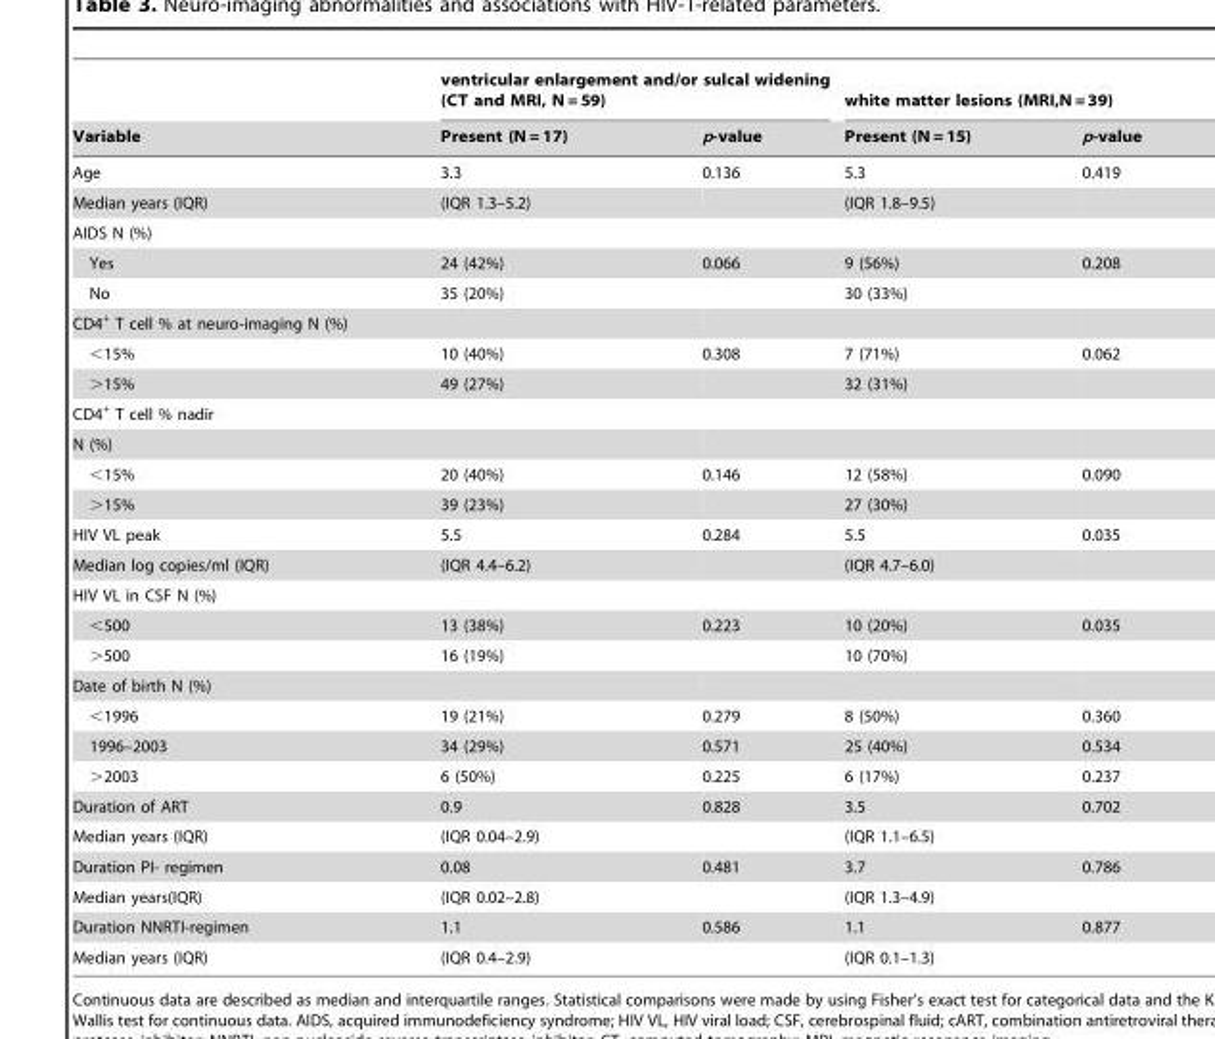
<table><thead><tr><td rowspan="2">Variable</td><td colspan="2">ventricular enlargement and/or sulcal widening (CT and MRI, N = 59)</td><td colspan="2">white matter lesions (MRI,N = 39)</td></tr><tr><td>Present (N = 17)</td><td>p-value</td><td>Present (N = 15)</td><td>p-value</td></tr></thead><tbody><tr><td>Age</td><td>3.3</td><td>0.136</td><td>5.3</td><td>0.419</td></tr><tr><td>Median years (IQR)</td><td>(IQR 1.3–5.2)</td><td></td><td>(IQR 1.8–9.5)</td><td></td></tr><tr><td colspan="5">AIDS N (%)</td></tr><tr><td>Yes</td><td>24 (42%)</td><td>0.066</td><td>9 (56%)</td><td>0.208</td></tr><tr><td>No</td><td>35 (20%)</td><td></td><td>30 (33%)</td><td></td></tr><tr><td colspan="5">CD4<sup>+</sup> T cell % at neuro-imaging N (%)</td></tr><tr><td>&lt;15%</td><td>10 (40%)</td><td>0.308</td><td>7 (71%)</td><td>0.062</td></tr><tr><td>&gt;15%</td><td>49 (27%)</td><td></td><td>32 (31%)</td><td></td></tr><tr><td colspan="5">CD4<sup>+</sup> T cell % nadir</td></tr><tr><td colspan="5">N (%)</td></tr><tr><td>&lt;15%</td><td>20 (40%)</td><td>0.146</td><td>12 (58%)</td><td>0.090</td></tr><tr><td>&gt;15%</td><td>39 (23%)</td><td></td><td>27 (30%)</td><td></td></tr><tr><td>HIV VL peak</td><td>5.5</td><td>0.284</td><td>5.5</td><td>0.035</td></tr><tr><td>Median log copies/ml (IQR)</td><td>(IQR 4.4–6.2)</td><td></td><td>(IQR 4.7–6.0)</td><td></td></tr><tr><td colspan="5">HIV VL in CSF N (%)</td></tr><tr><td>&lt;500</td><td>13 (38%)</td><td>0.223</td><td>10 (20%)</td><td>0.035</td></tr><tr><td>&gt;500</td><td>16 (19%)</td><td></td><td>10 (70%)</td><td></td></tr><tr><td colspan="5">Date of birth N (%)</td></tr><tr><td>&lt;1996</td><td>19 (21%)</td><td>0.279</td><td>8 (50%)</td><td>0.360</td></tr><tr><td>1996–2003</td><td>34 (29%)</td><td>0.571</td><td>25 (40%)</td><td>0.534</td></tr><tr><td>&gt;2003</td><td>6 (50%)</td><td>0.225</td><td>6 (17%)</td><td>0.237</td></tr><tr><td>Duration of ART</td><td>0.9</td><td>0.828</td><td>3.5</td><td>0.702</td></tr><tr><td>Median years (IQR)</td><td>(IQR 0.04–2.9)</td><td></td><td>(IQR 1.1–6.5)</td><td></td></tr><tr><td>Duration PI- regimen</td><td>0.08</td><td>0.481</td><td>3.7</td><td>0.786</td></tr><tr><td>Median years(IQR)</td><td>(IQR 0.02–2.8)</td><td></td><td>(IQR 1.3–4.9)</td><td></td></tr><tr><td>Duration NNRTI-regimen</td><td>1.1</td><td>0.586</td><td>1.1</td><td>0.877</td></tr><tr><td>Median years (IQR)</td><td>(IQR 0.4–2.9)</td><td></td><td>(IQR 0.1–1.3)</td><td></td></tr></tbody></table>